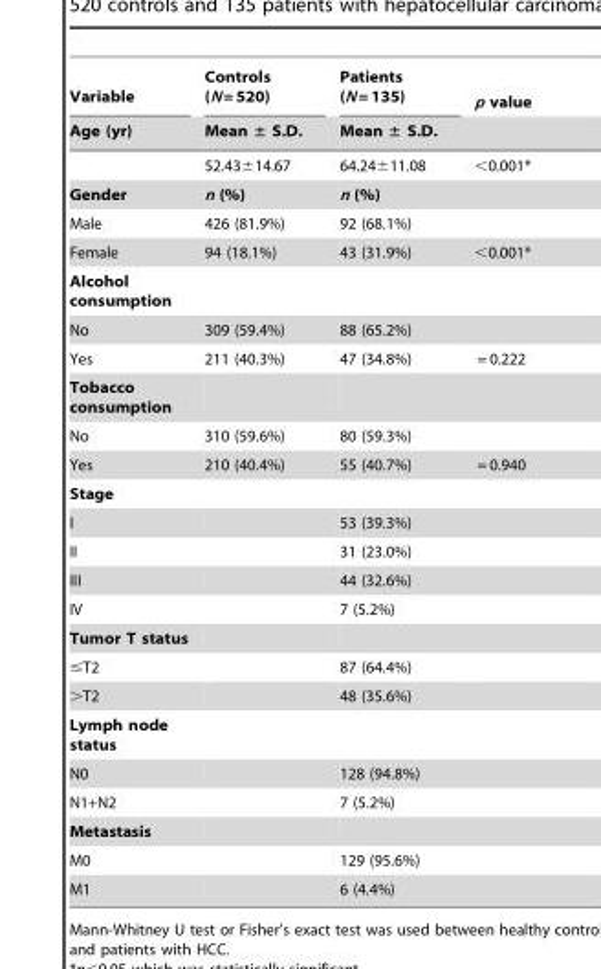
<table><thead><tr><td rowspan="2">Variable Age (yr)</td><td rowspan="2">Controls (N = 520) Mean ± S.D.</td><td rowspan="2">Patients (N = 135) Mean ± S.D.</td><td rowspan="2">p value</td></tr><tr></tr></thead><tbody><tr><td></td><td>52.43±14.67</td><td>64.24±11.08</td><td>&lt;0.001*</td></tr><tr><td>Gender</td><td>n (%)</td><td>n (%)</td><td></td></tr><tr><td>Male</td><td>426 (81.9%)</td><td>92 (68.1%)</td><td></td></tr><tr><td>Female</td><td>94 (18.1%)</td><td>43 (31.9%)</td><td>&lt;0.001*</td></tr><tr><td colspan="4">Alcohol consumption</td></tr><tr><td>No</td><td>309 (59.4%)</td><td>88 (65.2%)</td><td></td></tr><tr><td>Yes</td><td>211 (40.3%)</td><td>47 (34.8%)</td><td>= 0.222</td></tr><tr><td colspan="4">Tobacco consumption</td></tr><tr><td>No</td><td>310 (59.6%)</td><td>80 (59.3%)</td><td></td></tr><tr><td>Yes</td><td>210 (40.4%)</td><td>55 (40.7%)</td><td>= 0.940</td></tr><tr><td colspan="4">Stage</td></tr><tr><td>I</td><td></td><td>53 (39.3%)</td><td></td></tr><tr><td>II</td><td></td><td>31 (23.0%)</td><td></td></tr><tr><td>III</td><td></td><td>44 (32.6%)</td><td></td></tr><tr><td>IV</td><td></td><td>7 (5.2%)</td><td></td></tr><tr><td colspan="4">Tumor T status</td></tr><tr><td>≤T2</td><td></td><td>87 (64.4%)</td><td></td></tr><tr><td>&gt;T2</td><td></td><td>48 (35.6%)</td><td></td></tr><tr><td colspan="4">Lymph node status</td></tr><tr><td>N0</td><td></td><td>128 (94.8%)</td><td></td></tr><tr><td>N1+N2</td><td></td><td>7 (5.2%)</td><td></td></tr><tr><td colspan="4">Metastasis</td></tr><tr><td>M0</td><td></td><td>129 (95.6%)</td><td></td></tr><tr><td>M1</td><td></td><td>6 (4.4%)</td><td></td></tr></tbody></table>